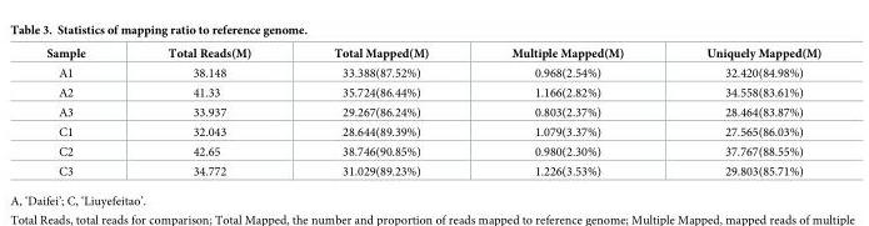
<table><thead><tr><td>Sample</td><td>Total Reads(M)</td><td>Total Mapped(M)</td><td>Multiple Mapped(M)</td><td>Uniquely Mapped(M)</td></tr></thead><tbody><tr><td>A1</td><td>38.148</td><td>33.388(87.52%)</td><td>0.968(2.54%)</td><td>32.420(84.98%)</td></tr><tr><td>A2</td><td>41.33</td><td>35.724(86.44%)</td><td>1.166(2.82%)</td><td>34.558(83.61%)</td></tr><tr><td>A3</td><td>33.937</td><td>29.267(86.24%)</td><td>0.803(2.37%)</td><td>28.464(83.87%)</td></tr><tr><td>C1</td><td>32.043</td><td>28.644(89.39%)</td><td>1.079(3.37%)</td><td>27.565(86.03%)</td></tr><tr><td>C2</td><td>42.65</td><td>38.746(90.85%)</td><td>0.980(2.30%)</td><td>37.767(88.55%)</td></tr><tr><td>C3</td><td>34.772</td><td>31.029(89.23%)</td><td>1.226(3.53%)</td><td>29.803(85.71%)</td></tr></tbody></table>